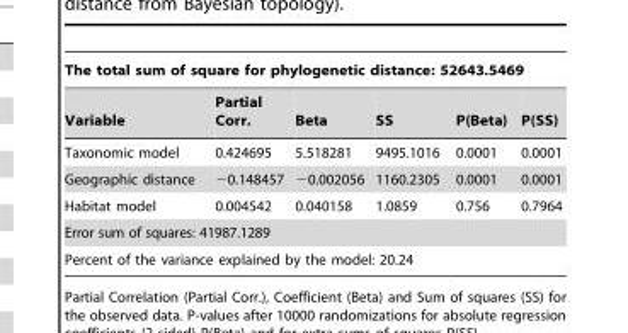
<table><thead><tr><td colspan="6">The total sum of square for phylogenetic distance: 52643.5469</td></tr><tr><td>Variable</td><td>Partial Corr.</td><td>Beta</td><td>SS</td><td>P(Beta)</td><td>P(SS)</td></tr></thead><tbody><tr><td>Taxonomic model</td><td>0.424695</td><td>5.518281</td><td>9495.1016</td><td>0.0001</td><td>0.0001</td></tr><tr><td>Geographic distance</td><td>−0.148457</td><td>−0.002056</td><td>1160.2305</td><td>0.0001</td><td>0.0001</td></tr><tr><td>Habitat model</td><td>0.004542</td><td>0.040158</td><td>1.0859</td><td>0.756</td><td>0.7964</td></tr><tr><td colspan="6">Error sum of squares: 41987.1289</td></tr><tr><td colspan="6">Percent of the variance explained by the model: 20.24</td></tr></tbody></table>